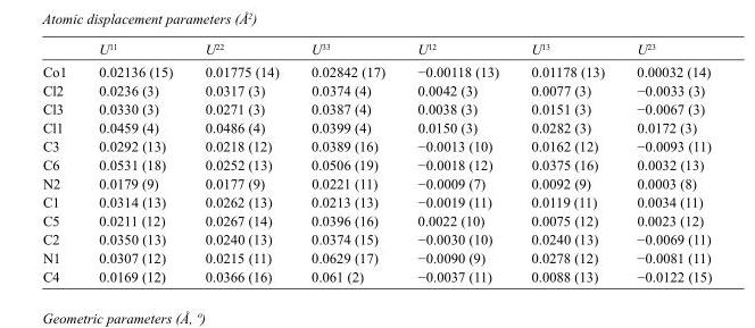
<table><thead><tr><td></td><td>U<sup>11</sup></td><td>U<sup>22</sup></td><td>U<sup>33</sup></td><td>U<sup>12</sup></td><td>U<sup>13</sup></td><td>U<sup>23</sup></td></tr></thead><tbody><tr><td>Co1</td><td>0.02136 (15)</td><td>0.01775 (14)</td><td>0.02842 (17)</td><td>−0.00118 (13)</td><td>0.01178 (13)</td><td>0.00032 (14)</td></tr><tr><td>Cl2</td><td>0.0236 (3)</td><td>0.0317 (3)</td><td>0.0374 (4)</td><td>0.0042 (3)</td><td>0.0077 (3)</td><td>−0.0033 (3)</td></tr><tr><td>Cl3</td><td>0.0330 (3)</td><td>0.0271 (3)</td><td>0.0387 (4)</td><td>0.0038 (3)</td><td>0.0151 (3)</td><td>−0.0067 (3)</td></tr><tr><td>Cl1</td><td>0.0459 (4)</td><td>0.0486 (4)</td><td>0.0399 (4)</td><td>0.0150 (3)</td><td>0.0282 (3)</td><td>0.0172 (3)</td></tr><tr><td>C3</td><td>0.0292 (13)</td><td>0.0218 (12)</td><td>0.0389 (16)</td><td>−0.0013 (10)</td><td>0.0162 (12)</td><td>−0.0093 (11)</td></tr><tr><td>C6</td><td>0.0531 (18)</td><td>0.0252 (13)</td><td>0.0506 (19)</td><td>−0.0018 (12)</td><td>0.0375 (16)</td><td>0.0032 (13)</td></tr><tr><td>N2</td><td>0.0179 (9)</td><td>0.0177 (9)</td><td>0.0221 (11)</td><td>−0.0009 (7)</td><td>0.0092 (9)</td><td>0.0003 (8)</td></tr><tr><td>C1</td><td>0.0314 (13)</td><td>0.0262 (13)</td><td>0.0213 (13)</td><td>−0.0019 (11)</td><td>0.0119 (11)</td><td>0.0034 (11)</td></tr><tr><td>C5</td><td>0.0211 (12)</td><td>0.0267 (14)</td><td>0.0396 (16)</td><td>0.0022 (10)</td><td>0.0075 (12)</td><td>0.0023 (12)</td></tr><tr><td>C2</td><td>0.0350 (13)</td><td>0.0240 (13)</td><td>0.0374 (15)</td><td>−0.0030 (10)</td><td>0.0240 (13)</td><td>−0.0069 (11)</td></tr><tr><td>N1</td><td>0.0307 (12)</td><td>0.0215 (11)</td><td>0.0629 (17)</td><td>−0.0090 (9)</td><td>0.0278 (12)</td><td>−0.0081 (11)</td></tr><tr><td>C4</td><td>0.0169 (12)</td><td>0.0366 (16)</td><td>0.061 (2)</td><td>−0.0037 (11)</td><td>0.0088 (13)</td><td>−0.0122 (15)</td></tr></tbody></table>